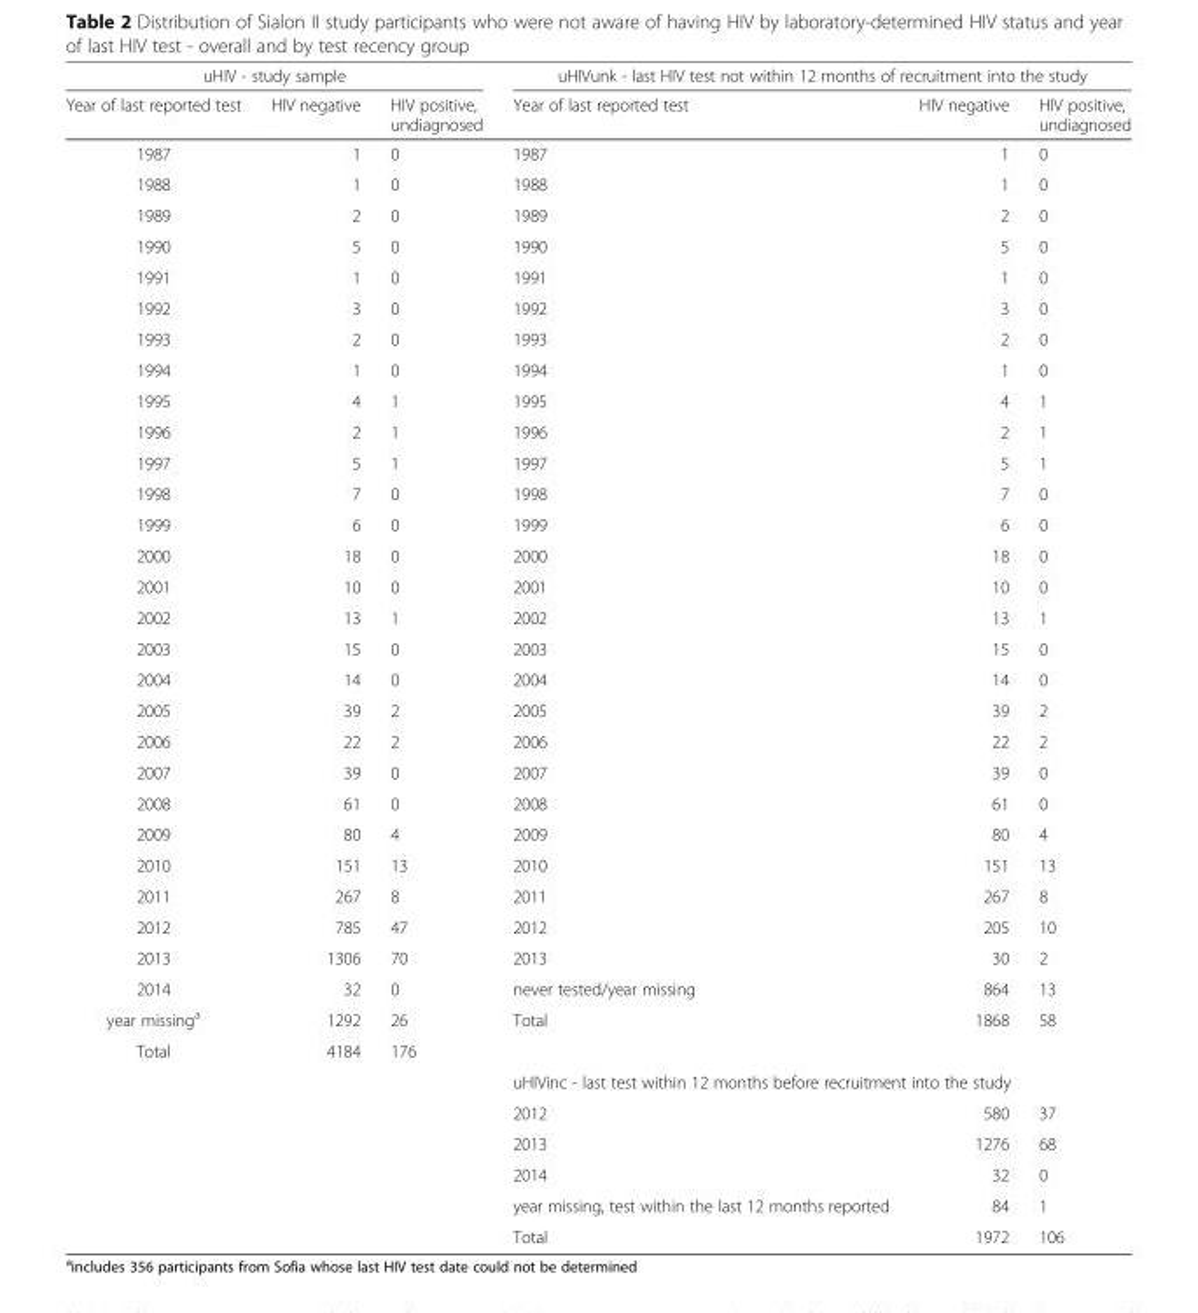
<table><thead><tr><td colspan="3">uHIV - study sample</td><td colspan="3">uHIVunk - last HIV test not within 12 months of recruitment into the study</td></tr><tr><td>Year of last reported test</td><td>HIV negative</td><td>HIV positive, undiagnosed</td><td>Year of last reported test</td><td>HIV negative</td><td>HIV positive, undiagnosed</td></tr></thead><tbody><tr><td>1987</td><td>1</td><td>0</td><td>1987</td><td>1</td><td>0</td></tr><tr><td>1988</td><td>1</td><td>0</td><td>1988</td><td>1</td><td>0</td></tr><tr><td>1989</td><td>2</td><td>0</td><td>1989</td><td>2</td><td>0</td></tr><tr><td>1990</td><td>5</td><td>0</td><td>1990</td><td>5</td><td>0</td></tr><tr><td>1991</td><td>1</td><td>0</td><td>1991</td><td>1</td><td>0</td></tr><tr><td>1992</td><td>3</td><td>0</td><td>1992</td><td>3</td><td>0</td></tr><tr><td>1993</td><td>2</td><td>0</td><td>1993</td><td>2</td><td>0</td></tr><tr><td>1994</td><td>1</td><td>0</td><td>1994</td><td>1</td><td>0</td></tr><tr><td>1995</td><td>4</td><td>1</td><td>1995</td><td>4</td><td>1</td></tr><tr><td>1996</td><td>2</td><td>1</td><td>1996</td><td>2</td><td>1</td></tr><tr><td>1997</td><td>5</td><td>1</td><td>1997</td><td>5</td><td>1</td></tr><tr><td>1998</td><td>7</td><td>0</td><td>1998</td><td>7</td><td>0</td></tr><tr><td>1999</td><td>6</td><td>0</td><td>1999</td><td>6</td><td>0</td></tr><tr><td>2000</td><td>18</td><td>0</td><td>2000</td><td>18</td><td>0</td></tr><tr><td>2001</td><td>10</td><td>0</td><td>2001</td><td>10</td><td>0</td></tr><tr><td>2002</td><td>13</td><td>1</td><td>2002</td><td>13</td><td>1</td></tr><tr><td>2003</td><td>15</td><td>0</td><td>2003</td><td>15</td><td>0</td></tr><tr><td>2004</td><td>14</td><td>0</td><td>2004</td><td>14</td><td>0</td></tr><tr><td>2005</td><td>39</td><td>2</td><td>2005</td><td>39</td><td>2</td></tr><tr><td>2006</td><td>22</td><td>2</td><td>2006</td><td>22</td><td>2</td></tr><tr><td>2007</td><td>39</td><td>0</td><td>2007</td><td>39</td><td>0</td></tr><tr><td>2008</td><td>61</td><td>0</td><td>2008</td><td>61</td><td>0</td></tr><tr><td>2009</td><td>80</td><td>4</td><td>2009</td><td>80</td><td>4</td></tr><tr><td>2010</td><td>151</td><td>13</td><td>2010</td><td>151</td><td>13</td></tr><tr><td>2011</td><td>267</td><td>8</td><td>2011</td><td>267</td><td>8</td></tr><tr><td>2012</td><td>785</td><td>47</td><td>2012</td><td>205</td><td>10</td></tr><tr><td>2013</td><td>1306</td><td>70</td><td>2013</td><td>30</td><td>2</td></tr><tr><td>2014</td><td>32</td><td>0</td><td>never tested/year missing</td><td>864</td><td>13</td></tr><tr><td>year missing<sup>a</sup></td><td>1292</td><td>26</td><td>Total</td><td>1868</td><td>58</td></tr><tr><td rowspan="7">Total</td><td>4184</td><td>176</td><td></td><td></td><td></td></tr><tr><td></td><td></td><td colspan="3">uHIVinc - last test within 12 months before recruitment into the study</td></tr><tr><td></td><td></td><td>2012</td><td>580</td><td>37</td></tr><tr><td></td><td></td><td>2013</td><td>1276</td><td>68</td></tr><tr><td></td><td></td><td>2014</td><td>32</td><td>0</td></tr><tr><td></td><td></td><td>year missing, test within the last 12 months reported</td><td>84</td><td>1</td></tr><tr><td></td><td></td><td>Total</td><td>1972</td><td>106</td></tr></tbody></table>